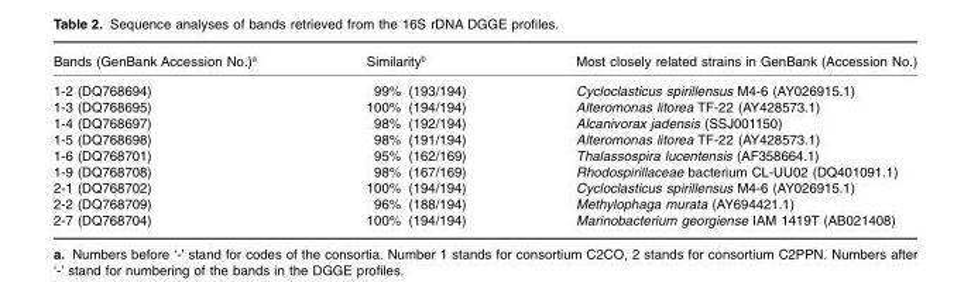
<table><thead><tr><td>Bands (GenBank Accession No.)<sup>a</sup></td><td>Similarity<sup>b</sup></td><td>Most closely related strains in GenBank (Accession No.)</td></tr></thead><tbody><tr><td>1-2 (DQ768694)</td><td>99% (193/194)</td><td>Cycloclasticus spirillensus M4-6 (AY026915.1)</td></tr><tr><td>1-3 (DQ768695)</td><td>100% (194/194)</td><td>Alteromonas litorea TF-22 (AY428573.1)</td></tr><tr><td>1-4 (DQ768697)</td><td>98% (192/194)</td><td>Alcanivorax jadensis (SSJ001150)</td></tr><tr><td>1-5 (DQ768698)</td><td>98% (191/194)</td><td>Alteromonas litorea TF-22 (AY428573.1)</td></tr><tr><td>1-6 (DQ768701)</td><td>95% (162/169)</td><td>Thalassospira lucentensis (AF358664.1)</td></tr><tr><td>1-9 (DQ768708)</td><td>98% (167/169)</td><td>Rhodospirillaceae bacterium CL-UU02 (DQ401091.1)</td></tr><tr><td>2-1 (DQ768702)</td><td>100% (194/194)</td><td>Cycloclasticus spirillensus M4-6 (AY026915.1)</td></tr><tr><td>2-2 (DQ768709)</td><td>96% (188/194)</td><td>Methylophaga murata (AY694421.1)</td></tr><tr><td>2-7 (DQ768704)</td><td>100% (194/194)</td><td>Marinobacterium georgiense IAM 1419T (AB021408)</td></tr></tbody></table>